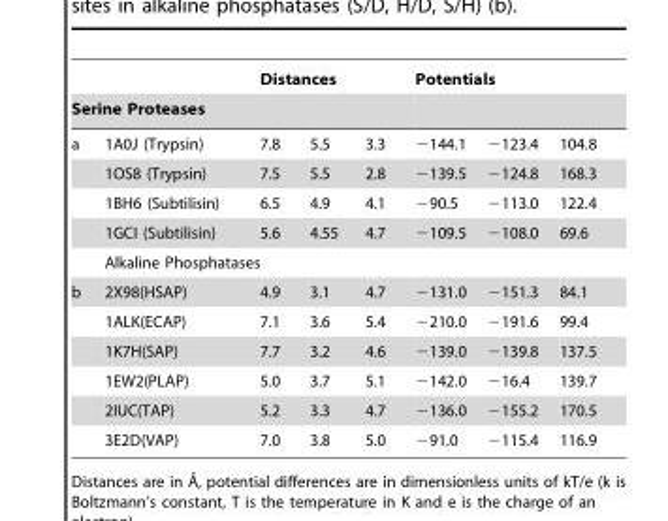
<table><thead><tr><td></td><td></td><td colspan="3">Distances</td><td colspan="3">Potentials</td></tr><tr><td colspan="5">Serine Proteases</td><td rowspan="2">−144.1</td><td rowspan="2">−123.4</td><td rowspan="2">104.8</td></tr><tr><td>a</td><td>1A0J (Trypsin)</td><td>7.8</td><td>5.5</td><td>3.3</td></tr></thead><tbody><tr><td></td><td>1OS8 (Trypsin)</td><td>7.5</td><td>5.5</td><td>2.8</td><td>−139.5</td><td>−124.8</td><td>168.3</td></tr><tr><td></td><td>1BH6 (Subtilisin)</td><td>6.5</td><td>4.9</td><td>4.1</td><td>−90.5</td><td>−113.0</td><td>122.4</td></tr><tr><td></td><td>1GCI (Subtilisin)</td><td>5.6</td><td>4.55</td><td>4.7</td><td>−109.5</td><td>−108.0</td><td>69.6</td></tr><tr><td></td><td colspan="4">Alkaline Phosphatases</td><td></td><td></td><td></td></tr><tr><td rowspan="6">b</td><td>2X98(HSAP)</td><td>4.9</td><td>3.1</td><td>4.7</td><td>−131.0</td><td>−151.3</td><td>84.1</td></tr><tr><td>1ALK(ECAP)</td><td>7.1</td><td>3.6</td><td>5.4</td><td>−210.0</td><td>−191.6</td><td>99.4</td></tr><tr><td>1K7H(SAP)</td><td>7.7</td><td>3.2</td><td>4.6</td><td>−139.0</td><td>−139.8</td><td>137.5</td></tr><tr><td>1EW2(PLAP)</td><td>5.0</td><td>3.7</td><td>5.1</td><td>−142.0</td><td>−16.4</td><td>139.7</td></tr><tr><td>2IUC(TAP)</td><td>5.2</td><td>3.3</td><td>4.7</td><td>−136.0</td><td>−155.2</td><td>170.5</td></tr><tr><td>3E2D(VAP)</td><td>7.0</td><td>3.8</td><td>5.0</td><td>−91.0</td><td>−115.4</td><td>116.9</td></tr></tbody></table>